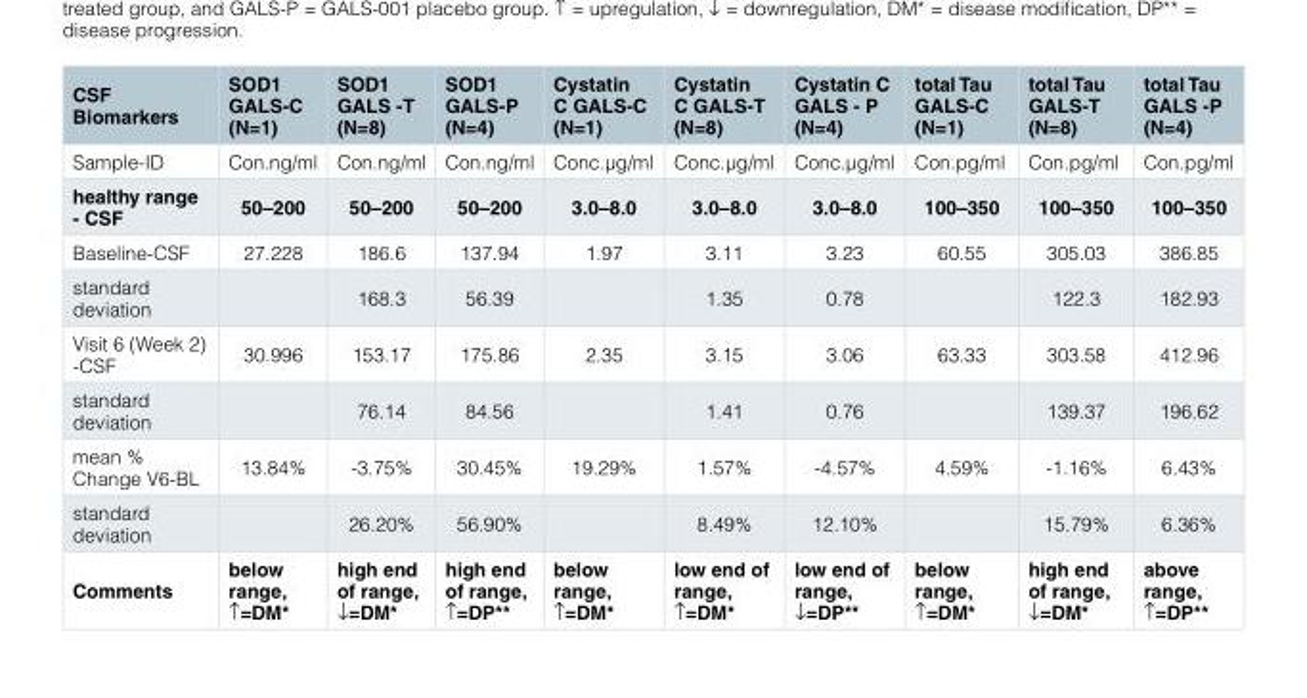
<table><thead><tr><td>CSF Biomarkers</td><td>SOD1 GALS-C (N=1)</td><td>SOD1 GALS -T (N=8)</td><td>SOD1 GALS-P (N=4)</td><td>Cystatin C GALS-C (N=1)</td><td>Cystatin C GALS-T (N=8)</td><td>Cystatin C GALS - P (N=4)</td><td>total Tau GALS-C (N=1)</td><td>total Tau GALS-T (N=8)</td><td>total Tau GALS -P (N=4)</td></tr></thead><tbody><tr><td>Sample-ID</td><td>Con.ng/ml</td><td>Con.ng/ml</td><td>Con.ng/ml</td><td>Conc.µg/ml</td><td>Conc.µg/ml</td><td>Conc.µg/ml</td><td>Con.pg/ml</td><td>Con.pg/ml</td><td>Con.pg/ml</td></tr><tr><td>healthy range - CSF</td><td>50–200</td><td>50–200</td><td>50–200</td><td>3.0–8.0</td><td>3.0–8.0</td><td>3.0–8.0</td><td>100–350</td><td>100–350</td><td>100–350</td></tr><tr><td>Baseline-CSF</td><td>27.228</td><td>186.6</td><td>137.94</td><td>1.97</td><td>3.11</td><td>3.23</td><td>60.55</td><td>305.03</td><td>386.85</td></tr><tr><td>standard deviation</td><td></td><td>168.3</td><td>56.39</td><td></td><td>1.35</td><td>0.78</td><td></td><td>122.3</td><td>182.93</td></tr><tr><td>Visit 6 (Week 2) -CSF</td><td>30.996</td><td>153.17</td><td>175.86</td><td>2.35</td><td>3.15</td><td>3.06</td><td>63.33</td><td>303.58</td><td>412.96</td></tr><tr><td>standard deviation</td><td></td><td>76.14</td><td>84.56</td><td></td><td>1.41</td><td>0.76</td><td></td><td>139.37</td><td>196.62</td></tr><tr><td>mean % Change V6-BL</td><td>13.84%</td><td>-3.75%</td><td>30.45%</td><td>19.29%</td><td>1.57%</td><td>-4.57%</td><td>4.59%</td><td>-1.16%</td><td>6.43%</td></tr><tr><td>standard deviation</td><td></td><td>26.20%</td><td>56.90%</td><td></td><td>8.49%</td><td>12.10%</td><td></td><td>15.79%</td><td>6.36%</td></tr><tr><td>Comments</td><td>below range, ↑=DM*</td><td>high end of range, ↓=DM*</td><td>high end of range, ↑=DP**</td><td>below range, ↑=DM*</td><td>low end of range, ↑=DM*</td><td>low end of range, ↓=DP**</td><td>below range, ↑=DM*</td><td>high end of range, ↓=DM*</td><td>above range, ↑=DP**</td></tr></tbody></table>